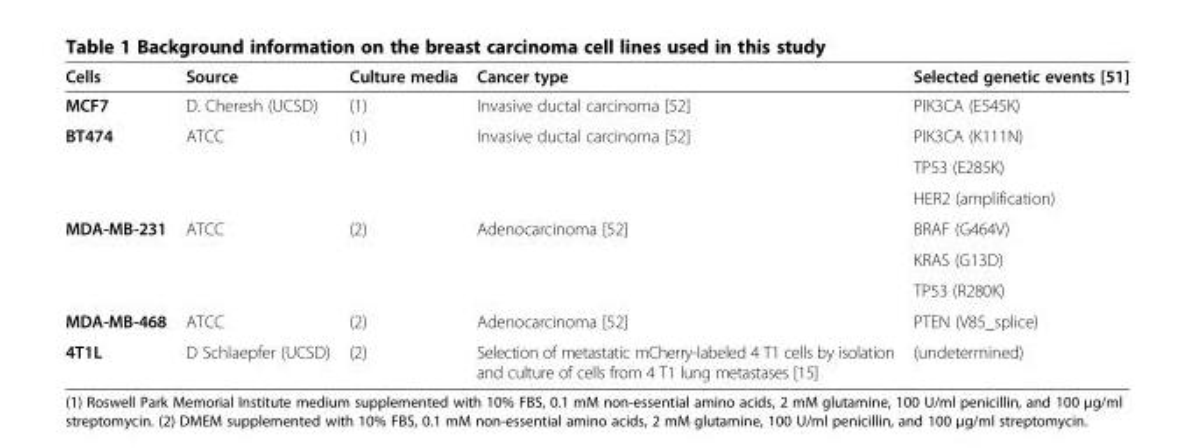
<table><thead><tr><td>Cells</td><td>Source</td><td>Culture media</td><td>Cancer type</td><td>Selected genetic events [51]</td></tr></thead><tbody><tr><td>MCF7</td><td>D. Cheresh (UCSD)</td><td>(1)</td><td>Invasive ductal carcinoma [52]</td><td>PIK3CA (E545K)</td></tr><tr><td rowspan="3">BT474</td><td rowspan="3">ATCC</td><td rowspan="3">(1)</td><td rowspan="3">Invasive ductal carcinoma [52]</td><td>PIK3CA (K111N)</td></tr><tr><td>TP53 (E285K)</td></tr><tr><td>HER2 (amplification)</td></tr><tr><td rowspan="3">MDA-MB-231</td><td rowspan="3">ATCC</td><td rowspan="3">(2)</td><td rowspan="3">Adenocarcinoma [52]</td><td>BRAF (G464V)</td></tr><tr><td>KRAS (G13D)</td></tr><tr><td>TP53 (R280K)</td></tr><tr><td>MDA-MB-468</td><td>ATCC</td><td>(2)</td><td>Adenocarcinoma [52]</td><td>PTEN (V85_splice)</td></tr><tr><td>4T1L</td><td>D Schlaepfer (UCSD)</td><td>(2)</td><td>Selection of metastatic mCherry-labeled 4 T1 cells by isolation and culture of cells from 4 T1 lung metastases [15]</td><td>(undetermined)</td></tr></tbody></table>